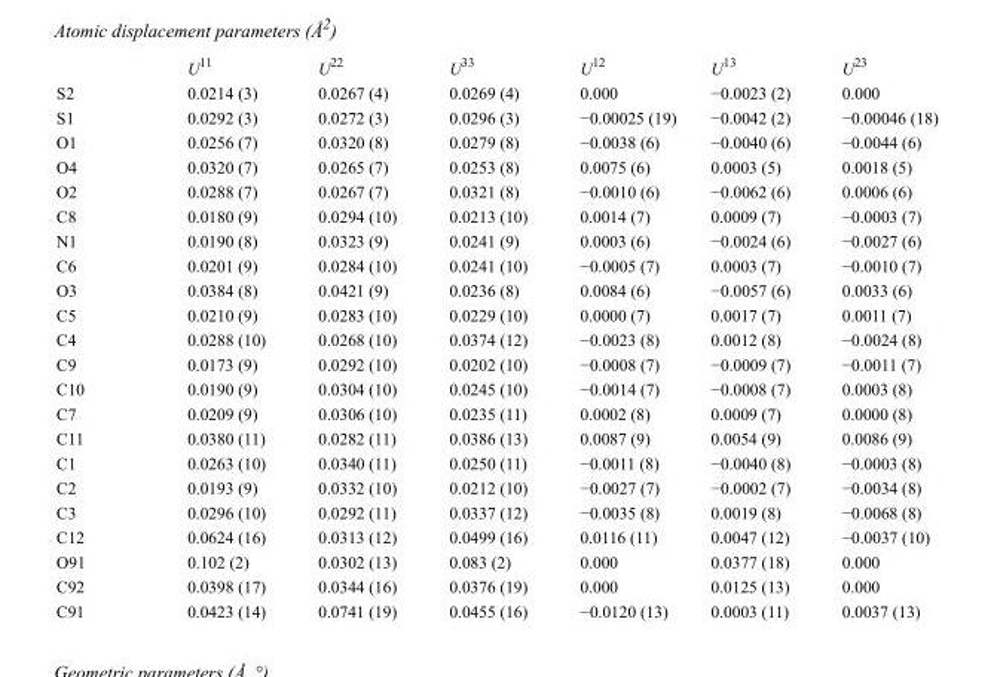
<table><thead><tr><td></td><td>U<sup>11</sup></td><td>U<sup>22</sup></td><td>U<sup>33</sup></td><td>U<sup>12</sup></td><td>U<sup>13</sup></td><td>U<sup>23</sup></td></tr></thead><tbody><tr><td>S2</td><td>0.0214 (3)</td><td>0.0267 (4)</td><td>0.0269 (4)</td><td>0.000</td><td>−0.0023 (2)</td><td>0.000</td></tr><tr><td>S1</td><td>0.0292 (3)</td><td>0.0272 (3)</td><td>0.0296 (3)</td><td>−0.00025 (19)</td><td>−0.0042 (2)</td><td>−0.00046 (18)</td></tr><tr><td>O1</td><td>0.0256 (7)</td><td>0.0320 (8)</td><td>0.0279 (8)</td><td>−0.0038 (6)</td><td>−0.0040 (6)</td><td>−0.0044 (6)</td></tr><tr><td>O4</td><td>0.0320 (7)</td><td>0.0265 (7)</td><td>0.0253 (8)</td><td>0.0075 (6)</td><td>0.0003 (5)</td><td>0.0018 (5)</td></tr><tr><td>O2</td><td>0.0288 (7)</td><td>0.0267 (7)</td><td>0.0321 (8)</td><td>−0.0010 (6)</td><td>−0.0062 (6)</td><td>0.0006 (6)</td></tr><tr><td>C8</td><td>0.0180 (9)</td><td>0.0294 (10)</td><td>0.0213 (10)</td><td>0.0014 (7)</td><td>0.0009 (7)</td><td>−0.0003 (7)</td></tr><tr><td>N1</td><td>0.0190 (8)</td><td>0.0323 (9)</td><td>0.0241 (9)</td><td>0.0003 (6)</td><td>−0.0024 (6)</td><td>−0.0027 (6)</td></tr><tr><td>C6</td><td>0.0201 (9)</td><td>0.0284 (10)</td><td>0.0241 (10)</td><td>−0.0005 (7)</td><td>0.0003 (7)</td><td>−0.0010 (7)</td></tr><tr><td>O3</td><td>0.0384 (8)</td><td>0.0421 (9)</td><td>0.0236 (8)</td><td>0.0084 (6)</td><td>−0.0057 (6)</td><td>0.0033 (6)</td></tr><tr><td>C5</td><td>0.0210 (9)</td><td>0.0283 (10)</td><td>0.0229 (10)</td><td>0.0000 (7)</td><td>0.0017 (7)</td><td>0.0011 (7)</td></tr><tr><td>C4</td><td>0.0288 (10)</td><td>0.0268 (10)</td><td>0.0374 (12)</td><td>−0.0023 (8)</td><td>0.0012 (8)</td><td>−0.0024 (8)</td></tr><tr><td>C9</td><td>0.0173 (9)</td><td>0.0292 (10)</td><td>0.0202 (10)</td><td>−0.0008 (7)</td><td>−0.0009 (7)</td><td>−0.0011 (7)</td></tr><tr><td>C10</td><td>0.0190 (9)</td><td>0.0304 (10)</td><td>0.0245 (10)</td><td>−0.0014 (7)</td><td>−0.0008 (7)</td><td>0.0003 (8)</td></tr><tr><td>C7</td><td>0.0209 (9)</td><td>0.0306 (10)</td><td>0.0235 (11)</td><td>0.0002 (8)</td><td>0.0009 (7)</td><td>0.0000 (8)</td></tr><tr><td>C11</td><td>0.0380 (11)</td><td>0.0282 (11)</td><td>0.0386 (13)</td><td>0.0087 (9)</td><td>0.0054 (9)</td><td>0.0086 (9)</td></tr><tr><td>C1</td><td>0.0263 (10)</td><td>0.0340 (11)</td><td>0.0250 (11)</td><td>−0.0011 (8)</td><td>−0.0040 (8)</td><td>−0.0003 (8)</td></tr><tr><td>C2</td><td>0.0193 (9)</td><td>0.0332 (10)</td><td>0.0212 (10)</td><td>−0.0027 (7)</td><td>−0.0002 (7)</td><td>−0.0034 (8)</td></tr><tr><td>C3</td><td>0.0296 (10)</td><td>0.0292 (11)</td><td>0.0337 (12)</td><td>−0.0035 (8)</td><td>0.0019 (8)</td><td>−0.0068 (8)</td></tr><tr><td>C12</td><td>0.0624 (16)</td><td>0.0313 (12)</td><td>0.0499 (16)</td><td>0.0116 (11)</td><td>0.0047 (12)</td><td>−0.0037 (10)</td></tr><tr><td>O91</td><td>0.102 (2)</td><td>0.0302 (13)</td><td>0.083 (2)</td><td>0.000</td><td>0.0377 (18)</td><td>0.000</td></tr><tr><td>C92</td><td>0.0398 (17)</td><td>0.0344 (16)</td><td>0.0376 (19)</td><td>0.000</td><td>0.0125 (13)</td><td>0.000</td></tr><tr><td>C91</td><td>0.0423 (14)</td><td>0.0741 (19)</td><td>0.0455 (16)</td><td>−0.0120 (13)</td><td>0.0003 (11)</td><td>0.0037 (13)</td></tr></tbody></table>